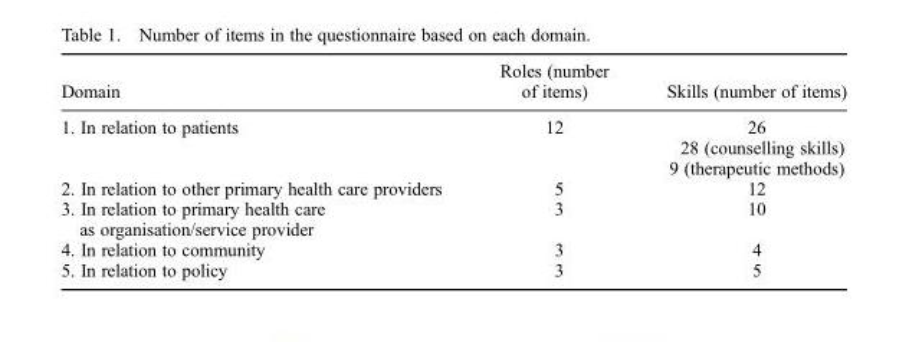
<table><thead><tr><td>Domain</td><td>Roles (number of items)</td><td>Skills (number of items)</td></tr></thead><tbody><tr><td rowspan="3">1. In relation to patients</td><td rowspan="3">12</td><td>26</td></tr><tr><td>28 (counselling skills)</td></tr><tr><td>9 (therapeutic methods)</td></tr><tr><td>2. In relation to other primary health care providers</td><td>5</td><td>12</td></tr><tr><td>3. In relation to primary health care as organisation/service provider</td><td>3</td><td>10</td></tr><tr><td>4. In relation to community</td><td>3</td><td>4</td></tr><tr><td>5. In relation to policy</td><td>3</td><td>5</td></tr></tbody></table>